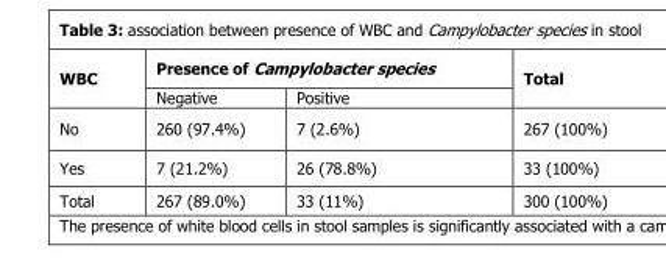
<table><thead><tr><td rowspan="2">WBC</td><td colspan="2">Presence of Campylobacter species</td><td rowspan="2">Total</td></tr><tr><td>Negative</td><td>Positive</td></tr></thead><tbody><tr><td>No</td><td>260 (97.4%)</td><td>7 (2.6%)</td><td>267 (100%)</td></tr><tr><td>Yes</td><td>7 (21.2%)</td><td>26 (78.8%)</td><td>33 (100%)</td></tr><tr><td>Total</td><td>267 (89.0%)</td><td>33 (11%)</td><td>300 (100%)</td></tr></tbody></table>